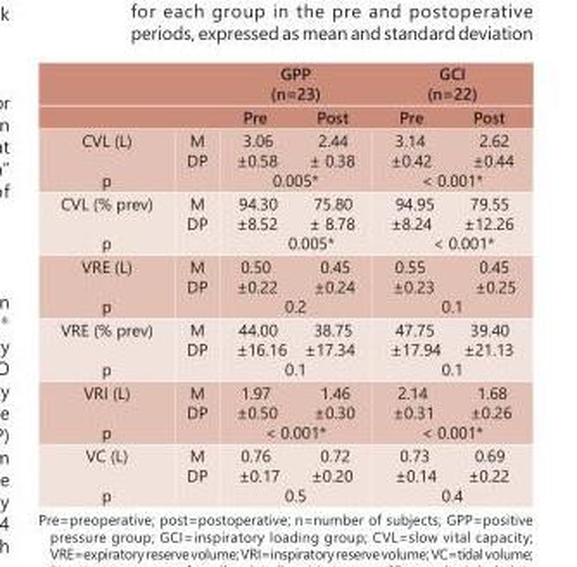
<table><thead><tr><td></td><td></td><td>GPP (n=23)</td><td>GCI (n=22)</td></tr></thead><tbody><tr><td></td><td></td><td>Pre Post</td><td>Pre Post</td></tr><tr><td>CVL (L) p</td><td>M DP</td><td>3.06 2.44 ±0.58 ± 0.38 0.005*</td><td>3.14 2.62 ±0.42 ±0.44 &lt; 0.001*</td></tr><tr><td>CVL (% prev) p</td><td>M DP</td><td>94.30 75.80 ±8.52 ± 8.78 0.005*</td><td>94.95 79.55 ±8.24 ±12.26 &lt; 0.001*</td></tr><tr><td>VRE (L) p</td><td>M DP</td><td>0.50 0.45 ±0.22 ±0.24 0.2</td><td>0.55 0.45 ±0.23 ±0.25 0.1</td></tr><tr><td>VRE (% prev) p</td><td>M DP</td><td>44.00 38.75 ±16.16 ±17.34 0.1</td><td>47.75 39.40 ±17.94 ±21.13 0.1</td></tr><tr><td>VRI (L) p</td><td>M DP</td><td>1.97 1.46 ±0.50 ±0.30 &lt; 0.001*</td><td>2.14 1.68 ±0.31 ±0.26 &lt; 0.001*</td></tr><tr><td>VC (L) p</td><td>M DP</td><td>0.76 0.72 ±0.17 ±0.20 0.5</td><td>0.73 0.69 ±0.14 ±0.22 0.4</td></tr></tbody></table>